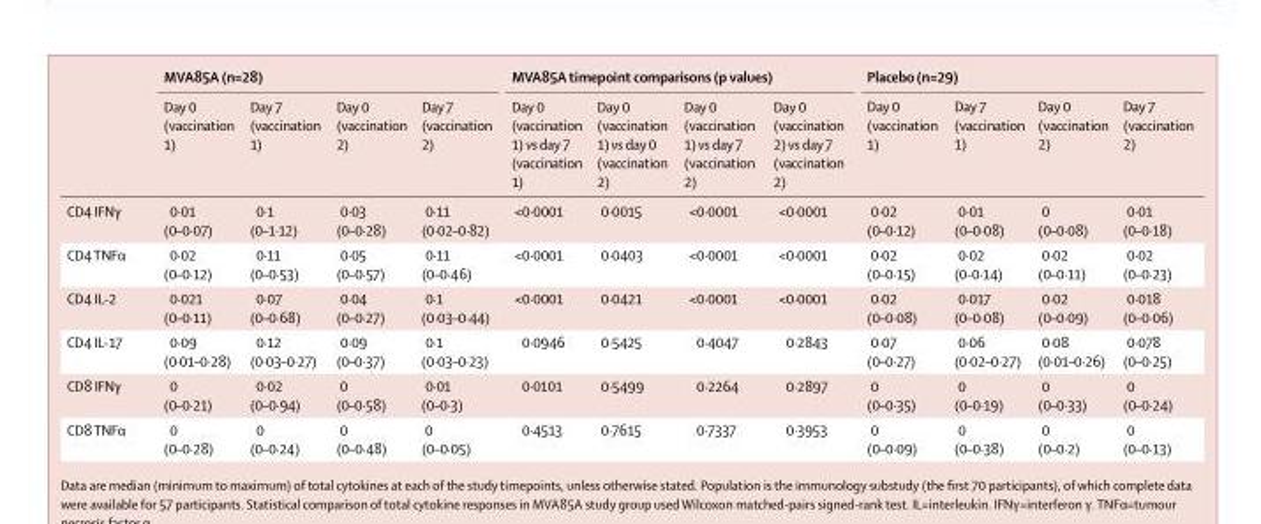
<table><thead><tr><td rowspan="2"></td><td colspan="4">MVA85A (n=28)</td><td colspan="4">MVA85A timepoint comparisons (p values)</td><td colspan="4">Placebo (n=29)</td></tr><tr><td>Day 0 (vaccination 1)</td><td>Day 7 (vaccination 1)</td><td>Day 0 (vaccination 2)</td><td>Day 7 (vaccination 2)</td><td>Day 0 (vaccination 1) vs day 7 (vaccination 1)</td><td>Day 0 (vaccination 1) vs day 0 (vaccination 2)</td><td>Day 0 (vaccination 1) vs day 7 (vaccination 2)</td><td>Day 0 (vaccination 2) vs day 7 (vaccination 2)</td><td>Day 0 (vaccination 1)</td><td>Day 7 (vaccination 1)</td><td>Day 0 (vaccination 2)</td><td>Day 7 (vaccination 2)</td></tr></thead><tbody><tr><td>CD4 IFNγ</td><td>0·01 (0–0·07)</td><td>0·1 (0–1·12)</td><td>0·03 (0–0·28)</td><td>0·11 (0·02–0·82)</td><td>&lt;0·0001</td><td>0·0015</td><td>&lt;0·0001</td><td>&lt;0·0001</td><td>0·02 (0–0·12)</td><td>0·01 (0–0·08)</td><td>0 (0–0·08)</td><td>0·01 (0–0·18)</td></tr><tr><td>CD4 TNFα</td><td>0·02 (0–0·12)</td><td>0·11 (0–0·53)</td><td>0·05 (0–0·57)</td><td>0·11 (0–0·46)</td><td>&lt;0·0001</td><td>0·0403</td><td>&lt;0·0001</td><td>&lt;0·0001</td><td>0·02 (0–0·15)</td><td>0·02 (0-0·14)</td><td>0·02 (0–0·11)</td><td>0·02 (0–0·23)</td></tr><tr><td>CD4 IL-2</td><td>0·021 (0–0·11)</td><td>0·07 (0–0·68)</td><td>0·04 (0–0·27)</td><td>0·1 (0·03–0·44)</td><td>&lt;0·0001</td><td>0·0421</td><td>&lt;0·0001</td><td>&lt;0·0001</td><td>0·02 (0–0·08)</td><td>0·017 (0–0·08)</td><td>0·02 (0–0·09)</td><td>0·018 (0–0·06)</td></tr><tr><td>CD4 IL-17</td><td>0·09 (0·01–0·28)</td><td>0·12 (0·03–0·27)</td><td>0·09 (0–0·37)</td><td>0·1 (0·03–0·23)</td><td>0·0946</td><td>0·5425</td><td>0·4047</td><td>0·2843</td><td>0·07 (0–0·27)</td><td>0·06 (0·02–0·27)</td><td>0·08 (0·01–0·26)</td><td>0·078 (0–0·25)</td></tr><tr><td>CD8 IFNγ</td><td>0 (0–0·21)</td><td>0·02 (0–0·94)</td><td>0 (0–0·58)</td><td>0·01 (0–0·3)</td><td>0·0101</td><td>0·5499</td><td>0·2264</td><td>0·2897</td><td>0 (0–0·35)</td><td>0 (0–0·19)</td><td>0 (0–0·33)</td><td>0 (0–0·24)</td></tr><tr><td>CD8 TNFα</td><td>0 (0–0·28)</td><td>0 (0–0·24)</td><td>0 (0–0·48)</td><td>0 (0–0·05)</td><td>0·4513</td><td>0·7615</td><td>0·7337</td><td>0·3953</td><td>0 (0–0·09)</td><td>0 (0–0·38)</td><td>0 (0–0·2)</td><td>0 (0–0·13)</td></tr></tbody></table>